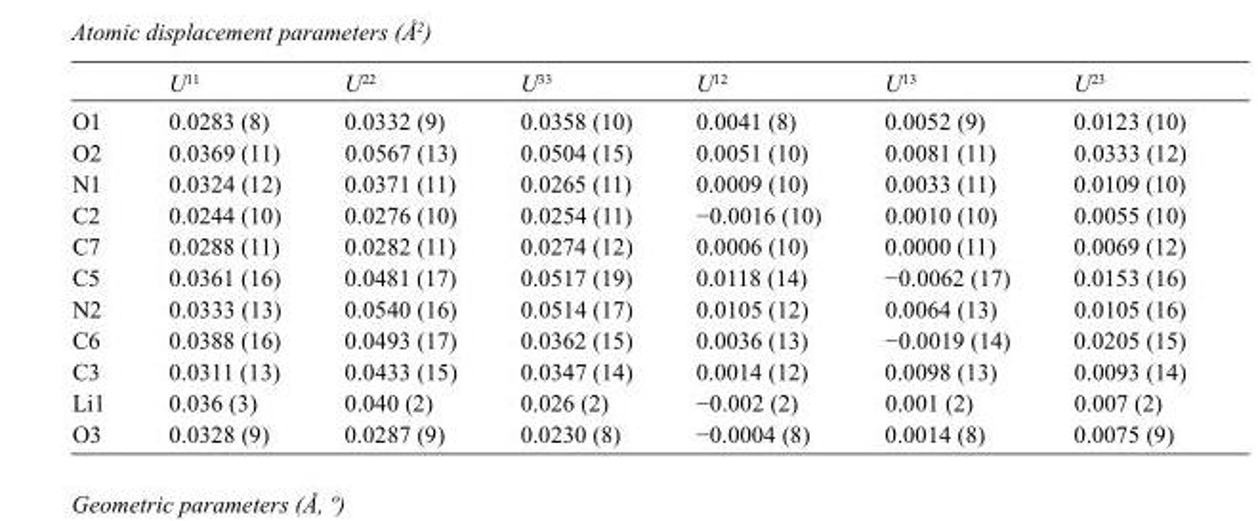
<table><thead><tr><td></td><td>U<sup>11</sup></td><td>U<sup>22</sup></td><td>U<sup>33</sup></td><td>U<sup>12</sup></td><td>U<sup>13</sup></td><td>U<sup>23</sup></td></tr></thead><tbody><tr><td>O1</td><td>0.0283 (8)</td><td>0.0332 (9)</td><td>0.0358 (10)</td><td>0.0041 (8)</td><td>0.0052 (9)</td><td>0.0123 (10)</td></tr><tr><td>O2</td><td>0.0369 (11)</td><td>0.0567 (13)</td><td>0.0504 (15)</td><td>0.0051 (10)</td><td>0.0081 (11)</td><td>0.0333 (12)</td></tr><tr><td>N1</td><td>0.0324 (12)</td><td>0.0371 (11)</td><td>0.0265 (11)</td><td>0.0009 (10)</td><td>0.0033 (11)</td><td>0.0109 (10)</td></tr><tr><td>C2</td><td>0.0244 (10)</td><td>0.0276 (10)</td><td>0.0254 (11)</td><td>−0.0016 (10)</td><td>0.0010 (10)</td><td>0.0055 (10)</td></tr><tr><td>C7</td><td>0.0288 (11)</td><td>0.0282 (11)</td><td>0.0274 (12)</td><td>0.0006 (10)</td><td>0.0000 (11)</td><td>0.0069 (12)</td></tr><tr><td>C5</td><td>0.0361 (16)</td><td>0.0481 (17)</td><td>0.0517 (19)</td><td>0.0118 (14)</td><td>−0.0062 (17)</td><td>0.0153 (16)</td></tr><tr><td>N2</td><td>0.0333 (13)</td><td>0.0540 (16)</td><td>0.0514 (17)</td><td>0.0105 (12)</td><td>0.0064 (13)</td><td>0.0105 (16)</td></tr><tr><td>C6</td><td>0.0388 (16)</td><td>0.0493 (17)</td><td>0.0362 (15)</td><td>0.0036 (13)</td><td>−0.0019 (14)</td><td>0.0205 (15)</td></tr><tr><td>C3</td><td>0.0311 (13)</td><td>0.0433 (15)</td><td>0.0347 (14)</td><td>0.0014 (12)</td><td>0.0098 (13)</td><td>0.0093 (14)</td></tr><tr><td>Li1</td><td>0.036 (3)</td><td>0.040 (2)</td><td>0.026 (2)</td><td>−0.002 (2)</td><td>0.001 (2)</td><td>0.007 (2)</td></tr><tr><td>O3</td><td>0.0328 (9)</td><td>0.0287 (9)</td><td>0.0230 (8)</td><td>−0.0004 (8)</td><td>0.0014 (8)</td><td>0.0075 (9)</td></tr></tbody></table>